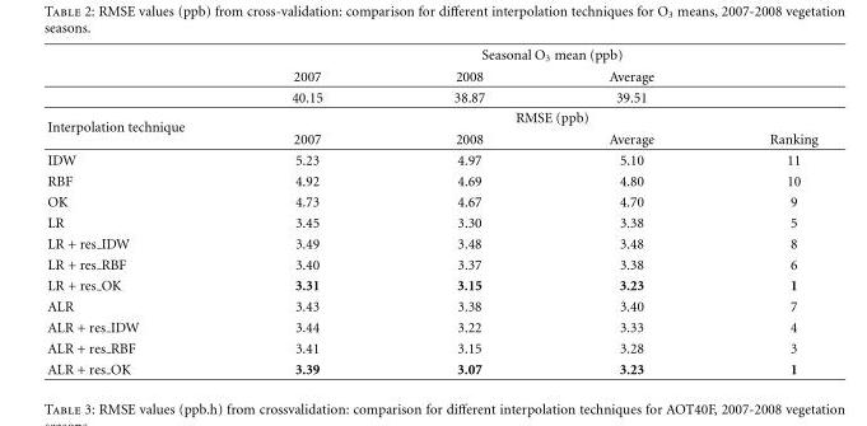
<table><thead><tr><td rowspan="2"></td><td colspan="4">Seasonal O<sub>3</sub> mean (ppb)</td></tr><tr><td>2007</td><td>2008</td><td>Average</td><td></td></tr></thead><tbody><tr><td></td><td>40.15</td><td>38.87</td><td>39.51</td><td></td></tr><tr><td rowspan="2">Interpolation technique</td><td colspan="4">RMSE (ppb)</td></tr><tr><td>2007</td><td>2008</td><td>Average</td><td>Ranking</td></tr><tr><td>IDW</td><td>5.23</td><td>4.97</td><td>5.10</td><td>11</td></tr><tr><td>RBF</td><td>4.92</td><td>4.69</td><td>4.80</td><td>10</td></tr><tr><td>OK</td><td>4.73</td><td>4.67</td><td>4.70</td><td>9</td></tr><tr><td>LR</td><td>3.45</td><td>3.30</td><td>3.38</td><td>5</td></tr><tr><td>LR + res IDW</td><td>3.49</td><td>3.48</td><td>3.48</td><td>8</td></tr><tr><td>LR + res RBF</td><td>3.40</td><td>3.37</td><td>3.38</td><td>6</td></tr><tr><td>LR + res OK</td><td>3.31</td><td>3.15</td><td>3.23</td><td>1</td></tr><tr><td>ALR</td><td>3.43</td><td>3.38</td><td>3.40</td><td>7</td></tr><tr><td>ALR + res IDW</td><td>3.44</td><td>3.22</td><td>3.33</td><td>4</td></tr><tr><td>ALR + res RBF</td><td>3.41</td><td>3.15</td><td>3.28</td><td>3</td></tr><tr><td>ALR + res OK</td><td>3.39</td><td>3.07</td><td>3.23</td><td>1</td></tr></tbody></table>